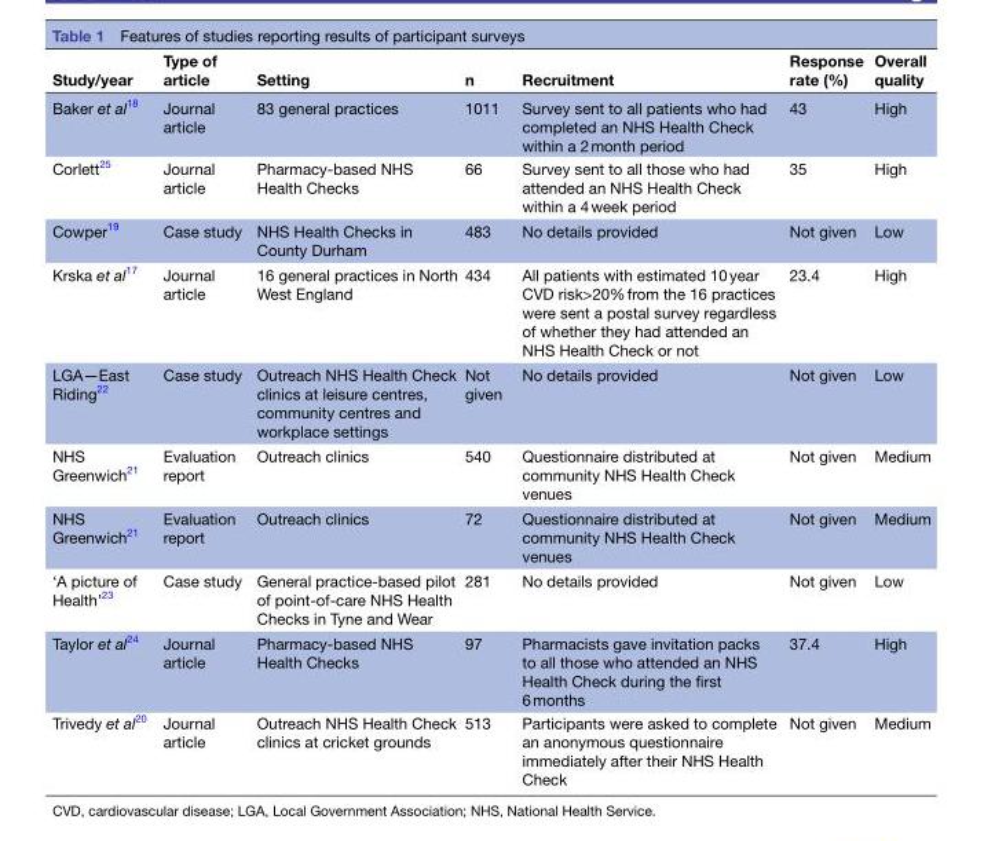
<table><thead><tr><td>Study/year</td><td>Type of article</td><td>Setting</td><td>n</td><td>Recruitment</td><td>Response rate (%)</td><td>Overall quality</td></tr></thead><tbody><tr><td>Baker et al<sup>18</sup></td><td>Journal article</td><td>83 general practices</td><td>1011</td><td>Survey sent to all patients who had completed an NHS Health Check within a 2 month period</td><td>43</td><td>High</td></tr><tr><td>Corlett<sup>25</sup></td><td>Journal article</td><td>Pharmacy-based NHS Health Checks</td><td>66</td><td>Survey sent to all those who had attended an NHS Health Check within a 4 week period</td><td>35</td><td>High</td></tr><tr><td>Cowper<sup>19</sup></td><td>Case study</td><td>NHS Health Checks in County Durham</td><td>483</td><td>No details provided</td><td>Not given</td><td>Low</td></tr><tr><td>Krska et al<sup>17</sup></td><td>Journal article</td><td>16 general practices in North West England</td><td>434</td><td>All patients with estimated 10 year CVD risk&gt;20% from the 16 practices were sent a postal survey regardless of whether they had attended an NHS Health Check or not</td><td>23.4</td><td>High</td></tr><tr><td>LGA—East Riding<sup>22</sup></td><td>Case study</td><td>Outreach NHS Health Check clinics at leisure centres, community centres and workplace settings</td><td>Not given</td><td>No details provided</td><td>Not given</td><td>Low</td></tr><tr><td>NHS Greenwich<sup>21</sup></td><td>Evaluation report</td><td>Outreach clinics</td><td>540</td><td>Questionnaire distributed at community NHS Health Check venues</td><td>Not given</td><td>Medium</td></tr><tr><td>NHS Greenwich<sup>21</sup></td><td>Evaluation report</td><td>Outreach clinics</td><td>72</td><td>Questionnaire distributed at community NHS Health Check venues</td><td>Not given</td><td>Medium</td></tr><tr><td>‘A picture of Health’<sup>23</sup></td><td>Case study</td><td>General practice-based pilot of point-of-care NHS Health Checks in Tyne and Wear</td><td>281</td><td>No details provided</td><td>Not given</td><td>Low</td></tr><tr><td>Taylor et al<sup>24</sup></td><td>Journal article</td><td>Pharmacy-based NHS Health Checks</td><td>97</td><td>Pharmacists gave invitation packs to all those who attended an NHS Health Check during the first 6 months</td><td>37.4</td><td>High</td></tr><tr><td>Trivedy et al<sup>20</sup></td><td>Journal article</td><td>Outreach NHS Health Check clinics at cricket grounds</td><td>513</td><td>Participants were asked to complete an anonymous questionnaire immediately after their NHS Health Check</td><td>Not given</td><td>Medium</td></tr></tbody></table>